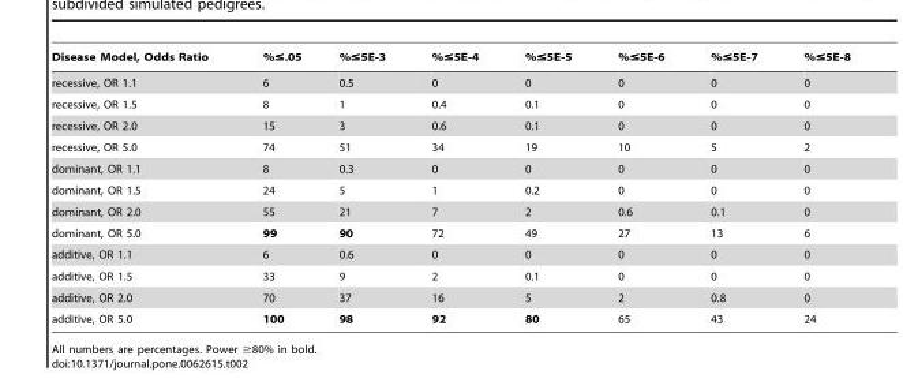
<table><thead><tr><td>Disease Model, Odds Ratio</td><td>%≤.05</td><td>%≤5E-3</td><td>%≤5E-4</td><td>%≤5E-5</td><td>%≤5E-6</td><td>%≤5E-7</td><td>%≤5E-8</td></tr></thead><tbody><tr><td>recessive, OR 1.1</td><td>6</td><td>0.5</td><td>0</td><td>0</td><td>0</td><td>0</td><td>0</td></tr><tr><td>recessive, OR 1.5</td><td>8</td><td>1</td><td>0.4</td><td>0.1</td><td>0</td><td>0</td><td>0</td></tr><tr><td>recessive, OR 2.0</td><td>15</td><td>3</td><td>0.6</td><td>0.1</td><td>0</td><td>0</td><td>0</td></tr><tr><td>recessive, OR 5.0</td><td>74</td><td>51</td><td>34</td><td>19</td><td>10</td><td>5</td><td>2</td></tr><tr><td>dominant, OR 1.1</td><td>8</td><td>0.3</td><td>0</td><td>0</td><td>0</td><td>0</td><td>0</td></tr><tr><td>dominant, OR 1.5</td><td>24</td><td>5</td><td>1</td><td>0.2</td><td>0</td><td>0</td><td>0</td></tr><tr><td>dominant, OR 2.0</td><td>55</td><td>21</td><td>7</td><td>2</td><td>0.6</td><td>0.1</td><td>0</td></tr><tr><td>dominant, OR 5.0</td><td>99</td><td>90</td><td>72</td><td>49</td><td>27</td><td>13</td><td>6</td></tr><tr><td>additive, OR 1.1</td><td>6</td><td>0.6</td><td>0</td><td>0</td><td>0</td><td>0</td><td>0</td></tr><tr><td>additive, OR 1.5</td><td>33</td><td>9</td><td>2</td><td>0.1</td><td>0</td><td>0</td><td>0</td></tr><tr><td>additive, OR 2.0</td><td>70</td><td>37</td><td>16</td><td>5</td><td>2</td><td>0.8</td><td>0</td></tr><tr><td>additive, OR 5.0</td><td>100</td><td>98</td><td>92</td><td>80</td><td>65</td><td>43</td><td>24</td></tr></tbody></table>